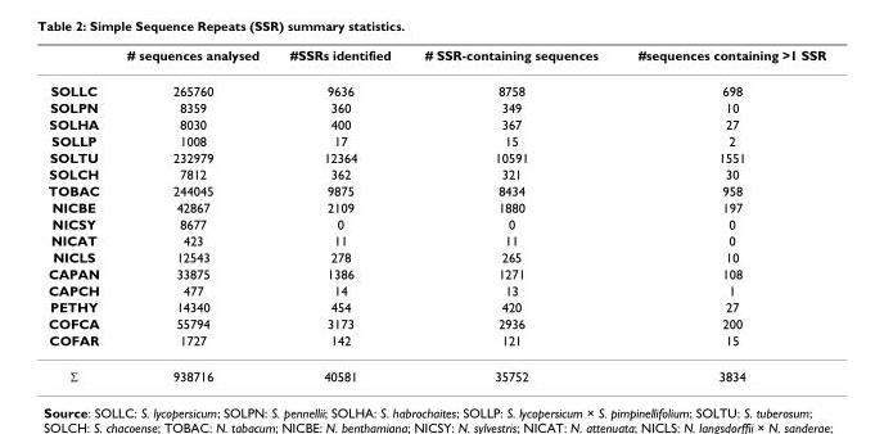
<table><thead><tr><td></td><td># sequences analysed</td><td>#SSRs identified</td><td># SSR-containing sequences</td><td>#sequences containing &gt;1 SSR</td></tr></thead><tbody><tr><td>SOLLC</td><td>265760</td><td>9636</td><td>8758</td><td>698</td></tr><tr><td>SOLPN</td><td>8359</td><td>360</td><td>349</td><td>10</td></tr><tr><td>SOLHA</td><td>8030</td><td>400</td><td>367</td><td>27</td></tr><tr><td>SOLLP</td><td>1008</td><td>17</td><td>15</td><td>2</td></tr><tr><td>SOLTU</td><td>232979</td><td>12364</td><td>10591</td><td>1551</td></tr><tr><td>SOLCH</td><td>7812</td><td>362</td><td>321</td><td>30</td></tr><tr><td>TOBAC</td><td>244045</td><td>9875</td><td>8434</td><td>958</td></tr><tr><td>NICBE</td><td>42867</td><td>2109</td><td>1880</td><td>197</td></tr><tr><td>NICSY</td><td>8677</td><td>0</td><td>0</td><td>0</td></tr><tr><td>NICAT</td><td>423</td><td>11</td><td>11</td><td>0</td></tr><tr><td>NICLS</td><td>12543</td><td>278</td><td>265</td><td>10</td></tr><tr><td>CAPAN</td><td>33875</td><td>1386</td><td>1271</td><td>108</td></tr><tr><td>CAPCH</td><td>477</td><td>14</td><td>13</td><td>1</td></tr><tr><td>PETHY</td><td>14340</td><td>454</td><td>420</td><td>27</td></tr><tr><td>COFCA</td><td>55794</td><td>3173</td><td>2936</td><td>200</td></tr><tr><td>COFAR</td><td>1727</td><td>142</td><td>121</td><td>15</td></tr><tr><td>Σ</td><td>938716</td><td>40581</td><td>35752</td><td>3834</td></tr></tbody></table>